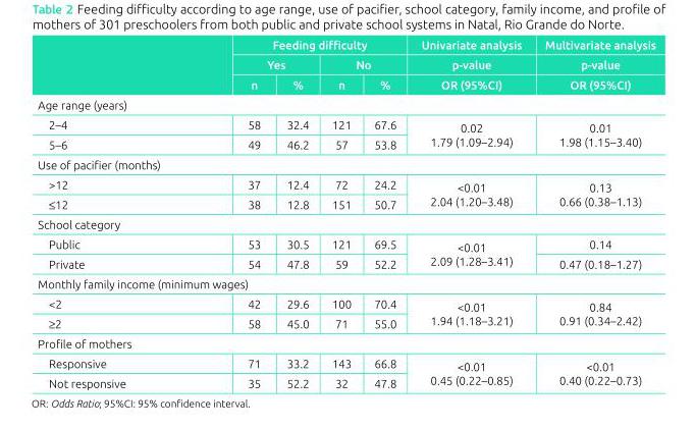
<table><thead><tr><td rowspan="3"></td><td colspan="4">Feeding difficulty</td><td rowspan="3">Univariate analysis p-value OR (95%CI)</td><td rowspan="3">Multivariate analysis p-value OR (95%CI)</td></tr><tr><td colspan="2">Yes</td><td colspan="2">No</td></tr><tr><td>n</td><td>%</td><td>n</td><td>%</td></tr></thead><tbody><tr><td colspan="7">Age range (years)</td></tr><tr><td>2–4</td><td>58</td><td>32.4</td><td>121</td><td>67.6</td><td rowspan="2">0.02 1.79 (1.09–2.94)</td><td rowspan="2">0.01 1.98 (1.15–3.40)</td></tr><tr><td>5–6</td><td>49</td><td>46.2</td><td>57</td><td>53.8</td></tr><tr><td colspan="7">Use of pacifier (months)</td></tr><tr><td>&gt;12</td><td>37</td><td>12.4</td><td>72</td><td>24.2</td><td rowspan="2">&lt;0.01 2.04 (1.20–3.48)</td><td rowspan="2">0.13 0.66 (0.38–1.13)</td></tr><tr><td>≤12</td><td>38</td><td>12.8</td><td>151</td><td>50.7</td></tr><tr><td colspan="7">School category</td></tr><tr><td>Public</td><td>53</td><td>30.5</td><td>121</td><td>69.5</td><td rowspan="2">&lt;0.01 2.09 (1.28–3.41)</td><td>0.14</td></tr><tr><td>Private</td><td>54</td><td>47.8</td><td>59</td><td>52.2</td><td>0.47 (0.18–1.27)</td></tr><tr><td colspan="7">Monthly family income (minimum wages)</td></tr><tr><td>&lt;2</td><td>42</td><td>29.6</td><td>100</td><td>70.4</td><td rowspan="2">&lt;0.01 1.94 (1.18–3.21)</td><td rowspan="2">0.84 0.91 (0.34–2.42)</td></tr><tr><td>≥2</td><td>58</td><td>45.0</td><td>71</td><td>55.0</td></tr><tr><td colspan="7">Profile of mothers</td></tr><tr><td>Responsive</td><td>71</td><td>33.2</td><td>143</td><td>66.8</td><td rowspan="2">&lt;0.01 0.45 (0.22–0.85)</td><td rowspan="2">&lt;0.01 0.40 (0.22–0.73)</td></tr><tr><td>Not responsive</td><td>35</td><td>52.2</td><td>32</td><td>47.8</td></tr></tbody></table>